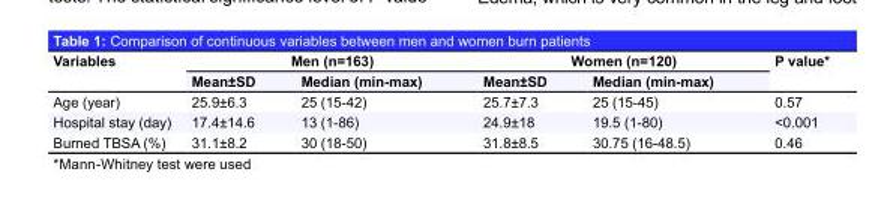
<table><thead><tr><td rowspan="2">Variables</td><td colspan="2">Men (n=163)</td><td colspan="2">Women (n=120)</td><td rowspan="2">P value*</td></tr><tr><td>Mean±SD</td><td>Median (min-max)</td><td>Mean±SD</td><td>Median (min-max)</td></tr></thead><tbody><tr><td>Age (year)</td><td>25.9±6.3</td><td>25 (15-42)</td><td>25.7±7.3</td><td>25 (15-45)</td><td>0.57</td></tr><tr><td>Hospital stay (day)</td><td>17.4±14.6</td><td>13 (1-86)</td><td>24.9±18</td><td>19.5 (1-80)</td><td>&lt;0.001</td></tr><tr><td>Burned TBSA (%)</td><td>31.1±8.2</td><td>30 (18-50)</td><td>31.8±8.5</td><td>30.75 (16-48.5)</td><td>0.46</td></tr></tbody></table>